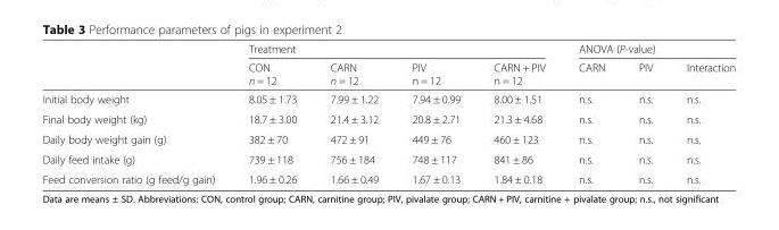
<table><thead><tr><td rowspan="2"></td><td colspan="4">Treatment</td><td colspan="3">ANOVA (P-value)</td></tr><tr><td>CON n = 12</td><td>CARN n = 12</td><td>PIV n = 12</td><td>CARN + PIV n = 12</td><td>CARN</td><td>PIV</td><td>Interaction</td></tr></thead><tbody><tr><td>Initial body weight</td><td>8.05 ± 1.73</td><td>7.99 ± 1.22</td><td>7.94 ± 0.99</td><td>8.00 ± 1.51</td><td>n.s.</td><td>n.s.</td><td>n.s.</td></tr><tr><td>Final body weight (kg)</td><td>18.7 ± 3.00</td><td>21.4 ± 3.12</td><td>20.8 ± 2.71</td><td>21.3 ± 4.68</td><td>n.s.</td><td>n.s.</td><td>n.s.</td></tr><tr><td>Daily body weight gain (g)</td><td>382 ± 70</td><td>472 ± 91</td><td>449 ± 76</td><td>460 ± 123</td><td>n.s.</td><td>n.s.</td><td>n.s.</td></tr><tr><td>Daily feed intake (g)</td><td>739 ± 118</td><td>756 ± 184</td><td>748 ± 117</td><td>841 ± 86</td><td>n.s.</td><td>n.s.</td><td>n.s.</td></tr><tr><td>Feed conversion ratio (g feed/g gain)</td><td>1.96 ± 0.26</td><td>1.66 ± 0.49</td><td>1.67 ± 0.13</td><td>1.84 ± 0.18</td><td>n.s.</td><td>n.s.</td><td>n.s.</td></tr></tbody></table>